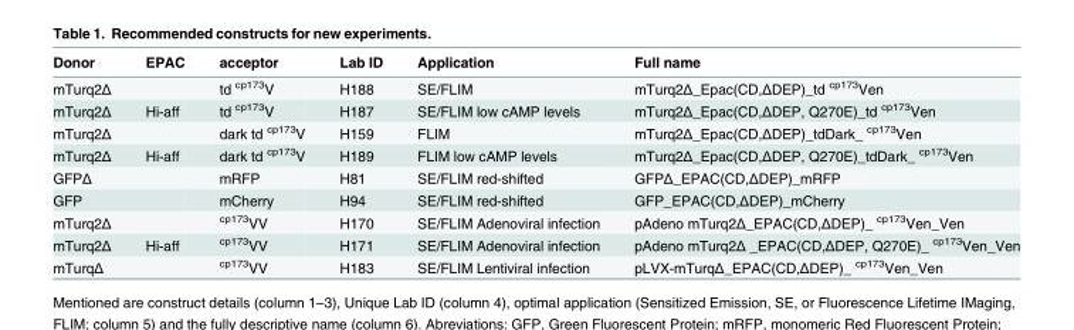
<table><thead><tr><td>Donor</td><td>EPAC</td><td>acceptor</td><td>Lab ID</td><td>Application</td><td>Full name</td></tr></thead><tbody><tr><td>mTurq2Δ</td><td></td><td>td <sup>cp173</sup>V</td><td>H188</td><td>SE/FLIM</td><td>mTurq2Δ_Epac(CD,ΔDEP)_td <sup>cp173</sup>Ven</td></tr><tr><td>mTurq2Δ</td><td>Hi-aff</td><td>td <sup>cp173</sup>V</td><td>H187</td><td>SE/FLIM low cAMP levels</td><td>mTurq2Δ_Epac(CD,ΔDEP, Q270E)_td <sup>cp173</sup>Ven</td></tr><tr><td>mTurq2Δ</td><td></td><td>dark td <sup>cp173</sup>V</td><td>H159</td><td>FLIM</td><td>mTurq2Δ_Epac(CD,ΔDEP)_tdDark_ <sup>cp173</sup>Ven</td></tr><tr><td>mTurq2Δ</td><td>Hi-aff</td><td>dark td <sup>cp173</sup>V</td><td>H189</td><td>FLIM low cAMP levels</td><td>mTurq2Δ_Epac(CD,ΔDEP, Q270E)_tdDark_ <sup>cp173</sup>Ven</td></tr><tr><td>GFPΔ</td><td></td><td>mRFP</td><td>H81</td><td>SE/FLIM red-shifted</td><td>GFPΔ_EPAC(CD,ΔDEP)_mRFP</td></tr><tr><td>GFP</td><td></td><td>mCherry</td><td>H94</td><td>SE/FLIM red-shifted</td><td>GFP_EPAC(CD,ΔDEP)_mCherry</td></tr><tr><td>mTurq2Δ</td><td></td><td><sup>cp173</sup>VV</td><td>H170</td><td>SE/FLIM Adenoviral infection</td><td>pAdeno mTurq2Δ_EPAC(CD,ΔDEP)_ <sup>cp173</sup>Ven_Ven</td></tr><tr><td>mTurq2Δ</td><td>Hi-aff</td><td><sup>cp173</sup>VV</td><td>H171</td><td>SE/FLIM Adenoviral infection</td><td>pAdeno mTurq2Δ _EPAC(CD,ΔDEP, Q270E)_ <sup>cp173</sup>Ven_Ven</td></tr><tr><td>mTurqΔ</td><td></td><td><sup>cp173</sup>VV</td><td>H183</td><td>SE/FLIM Lentiviral infection</td><td>pLVX-mTurqΔ_EPAC(CD,ΔDEP)_ <sup>cp173</sup>Ven_Ven</td></tr></tbody></table>